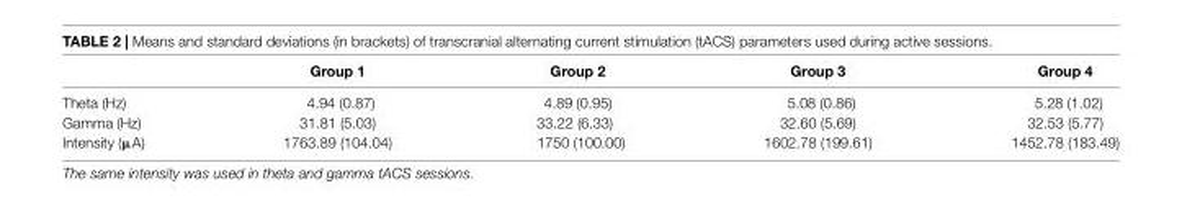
<table><thead><tr><td></td><td>Group 1</td><td>Group 2</td><td>Group 3</td><td>Group 4</td></tr></thead><tbody><tr><td>Theta (Hz)</td><td>4.94 (0.87)</td><td>4.89 (0.95)</td><td>5.08 (0.86)</td><td>5.28 (1.02)</td></tr><tr><td>Gamma (Hz)</td><td>31.81 (5.03)</td><td>33.22 (6.33)</td><td>32.60 (5.69)</td><td>32.53 (5.77)</td></tr><tr><td>Intensity (µA)</td><td>1763.89 (104.04)</td><td>1750 (100.00)</td><td>1602.78 (199.61)</td><td>1452.78 (183.49)</td></tr></tbody></table>